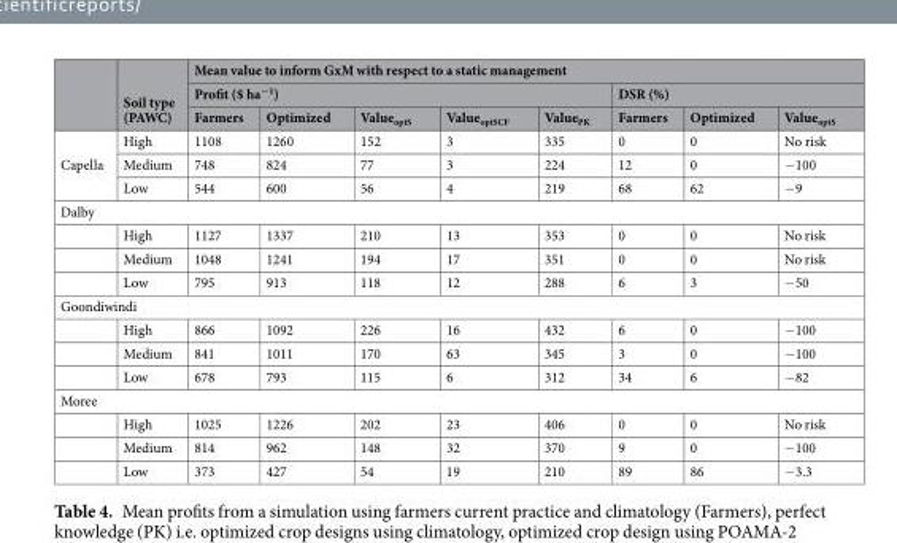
<table><thead><tr><td rowspan="3"></td><td rowspan="3">Soil type (PAWC)</td><td colspan="8">Mean value to inform GxM with respect to a static management</td></tr><tr><td colspan="5">Profit ($ ha<sup>−1</sup>)</td><td colspan="3">DSR (%)</td></tr><tr><td>Farmers</td><td>Optimized</td><td>Value<sub>optS</sub></td><td>Value<sub>optSCF</sub></td><td>Value<sub>PK</sub></td><td>Farmers</td><td>Optimized</td><td>Value<sub>optS</sub></td></tr></thead><tbody><tr><td rowspan="3">Capella</td><td>High</td><td>1108</td><td>1260</td><td>152</td><td>3</td><td>335</td><td>0</td><td>0</td><td>No risk</td></tr><tr><td>Medium</td><td>748</td><td>824</td><td>77</td><td>3</td><td>224</td><td>12</td><td>0</td><td>−100</td></tr><tr><td>Low</td><td>544</td><td>600</td><td>56</td><td>4</td><td>219</td><td>68</td><td>62</td><td>−9</td></tr><tr><td colspan="10">Dalby</td></tr><tr><td></td><td>High</td><td>1127</td><td>1337</td><td>210</td><td>13</td><td>353</td><td>0</td><td>0</td><td>No risk</td></tr><tr><td></td><td>Medium</td><td>1048</td><td>1241</td><td>194</td><td>17</td><td>351</td><td>0</td><td>0</td><td>No risk</td></tr><tr><td></td><td>Low</td><td>795</td><td>913</td><td>118</td><td>12</td><td>288</td><td>6</td><td>3</td><td>−50</td></tr><tr><td colspan="10">Goondiwindi</td></tr><tr><td></td><td>High</td><td>866</td><td>1092</td><td>226</td><td>16</td><td>432</td><td>6</td><td>0</td><td>−100</td></tr><tr><td></td><td>Medium</td><td>841</td><td>1011</td><td>170</td><td>63</td><td>345</td><td>3</td><td>0</td><td>−100</td></tr><tr><td></td><td>Low</td><td>678</td><td>793</td><td>115</td><td>6</td><td>312</td><td>34</td><td>6</td><td>−82</td></tr><tr><td colspan="10">Moree</td></tr><tr><td></td><td>High</td><td>1025</td><td>1226</td><td>202</td><td>23</td><td>406</td><td>0</td><td>0</td><td>No risk</td></tr><tr><td></td><td>Medium</td><td>814</td><td>962</td><td>148</td><td>32</td><td>370</td><td>9</td><td>0</td><td>−100</td></tr><tr><td></td><td>Low</td><td>373</td><td>427</td><td>54</td><td>19</td><td>210</td><td>89</td><td>86</td><td>−3.3</td></tr></tbody></table>